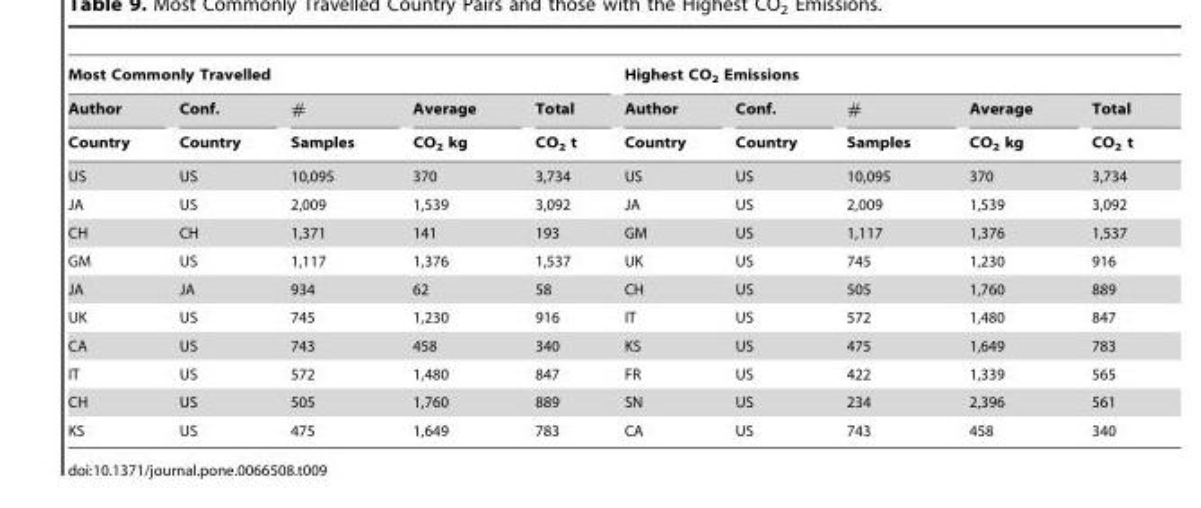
<table><thead><tr><td colspan="5">Most Commonly Travelled</td><td colspan="5">Highest CO<sub>2</sub> Emissions</td></tr><tr><td rowspan="2">Author Country</td><td rowspan="2">Conf. Country</td><td rowspan="2"># Samples</td><td rowspan="2">Average CO<sub>2</sub> kg</td><td rowspan="2">Total CO<sub>2</sub> t</td><td rowspan="2">Author Country</td><td rowspan="2">Conf. Country</td><td rowspan="2"># Samples</td><td rowspan="2">Average CO<sub>2</sub> kg</td><td rowspan="2">Total CO<sub>2</sub> t</td></tr><tr></tr></thead><tbody><tr><td>US</td><td>US</td><td>10,095</td><td>370</td><td>3,734</td><td>US</td><td>US</td><td>10,095</td><td>370</td><td>3,734</td></tr><tr><td>JA</td><td>US</td><td>2,009</td><td>1,539</td><td>3,092</td><td>JA</td><td>US</td><td>2,009</td><td>1,539</td><td>3,092</td></tr><tr><td>CH</td><td>CH</td><td>1,371</td><td>141</td><td>193</td><td>GM</td><td>US</td><td>1,117</td><td>1,376</td><td>1,537</td></tr><tr><td>GM</td><td>US</td><td>1,117</td><td>1,376</td><td>1,537</td><td>UK</td><td>US</td><td>745</td><td>1,230</td><td>916</td></tr><tr><td>JA</td><td>JA</td><td>934</td><td>62</td><td>58</td><td>CH</td><td>US</td><td>505</td><td>1,760</td><td>889</td></tr><tr><td>UK</td><td>US</td><td>745</td><td>1,230</td><td>916</td><td>IT</td><td>US</td><td>572</td><td>1,480</td><td>847</td></tr><tr><td>CA</td><td>US</td><td>743</td><td>458</td><td>340</td><td>KS</td><td>US</td><td>475</td><td>1,649</td><td>783</td></tr><tr><td>IT</td><td>US</td><td>572</td><td>1,480</td><td>847</td><td>FR</td><td>US</td><td>422</td><td>1,339</td><td>565</td></tr><tr><td>CH</td><td>US</td><td>505</td><td>1,760</td><td>889</td><td>SN</td><td>US</td><td>234</td><td>2,396</td><td>561</td></tr><tr><td>KS</td><td>US</td><td>475</td><td>1,649</td><td>783</td><td>CA</td><td>US</td><td>743</td><td>458</td><td>340</td></tr></tbody></table>